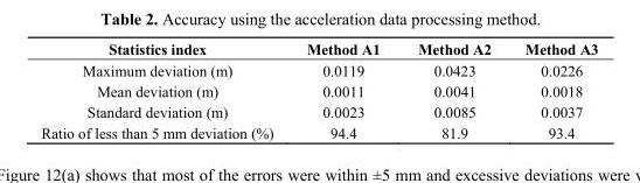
<table><thead><tr><td>Statistics index</td><td>Method A1</td><td>Method A2</td><td>Method A3</td></tr></thead><tbody><tr><td>Maximum deviation (m)</td><td>0.0119</td><td>0.0423</td><td>0.0226</td></tr><tr><td>Mean deviation (m)</td><td>0.0011</td><td>0.0041</td><td>0.0018</td></tr><tr><td>Standard deviation (m)</td><td>0.0023</td><td>0.0085</td><td>0.0037</td></tr><tr><td>Ratio of less than 5 mm deviation (%)</td><td>94.4</td><td>81.9</td><td>93.4</td></tr></tbody></table>